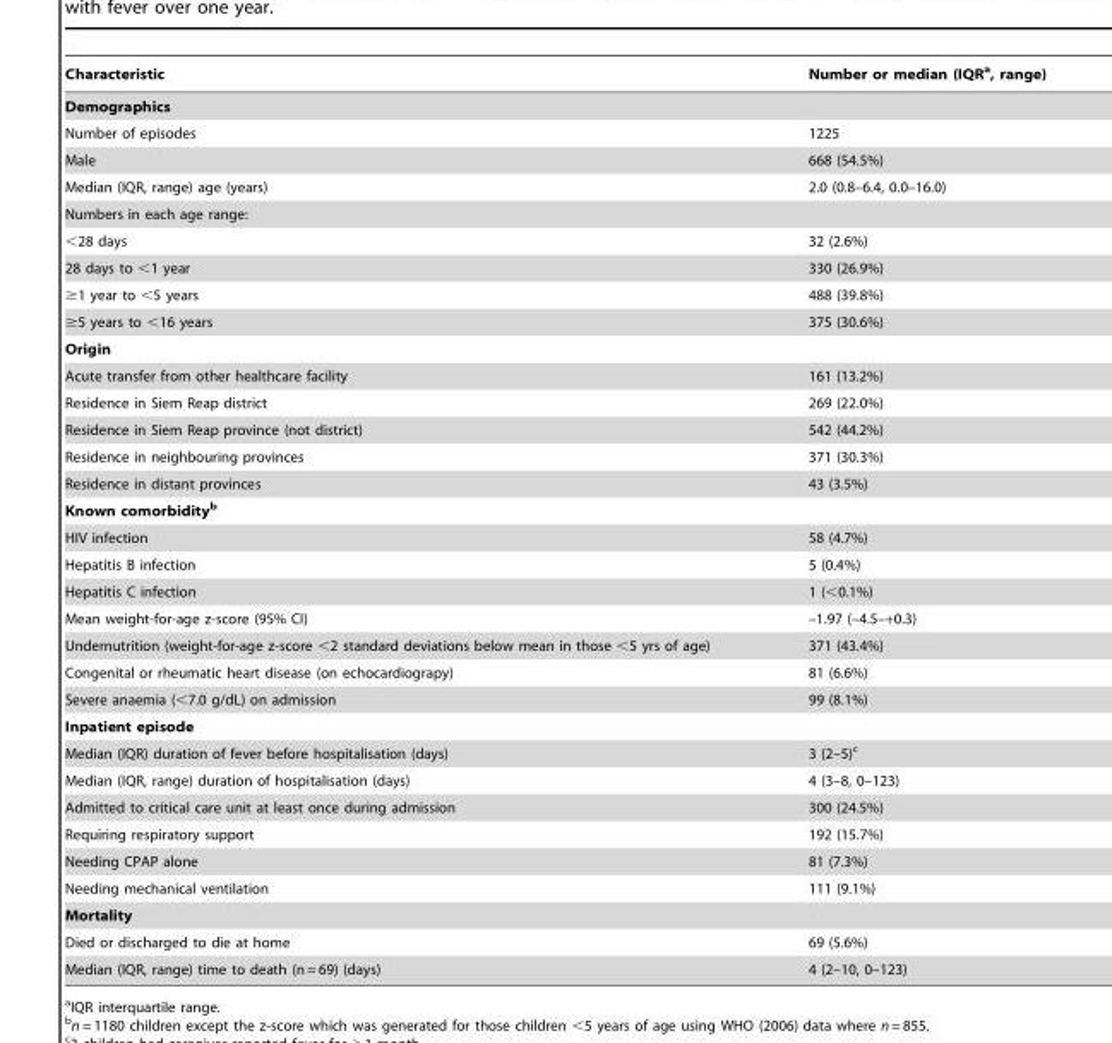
<table><thead><tr><td>Characteristic</td><td>Number or median (IQR<sup>a</sup>, range)</td></tr></thead><tbody><tr><td colspan="2">Demographics</td></tr><tr><td>Number of episodes</td><td>1225</td></tr><tr><td>Male</td><td>668 (54.5%)</td></tr><tr><td>Median (IQR, range) age (years)</td><td>2.0 (0.8–6.4, 0.0–16.0)</td></tr><tr><td colspan="2">Numbers in each age range:</td></tr><tr><td>&lt;28 days</td><td>32 (2.6%)</td></tr><tr><td>28 days to &lt;1 year</td><td>330 (26.9%)</td></tr><tr><td>≥1 year to &lt;5 years</td><td>488 (39.8%)</td></tr><tr><td>≥5 years to &lt;16 years</td><td>375 (30.6%)</td></tr><tr><td colspan="2">Origin</td></tr><tr><td>Acute transfer from other healthcare facility</td><td>161 (13.2%)</td></tr><tr><td>Residence in Siem Reap district</td><td>269 (22.0%)</td></tr><tr><td>Residence in Siem Reap province (not district)</td><td>542 (44.2%)</td></tr><tr><td>Residence in neighbouring provinces</td><td>371 (30.3%)</td></tr><tr><td>Residence in distant provinces</td><td>43 (3.5%)</td></tr><tr><td colspan="2">Known comorbidityb</td></tr><tr><td>HIV infection</td><td>58 (4.7%)</td></tr><tr><td>Hepatitis B infection</td><td>5 (0.4%)</td></tr><tr><td>Hepatitis C infection</td><td>1 (&lt;0.1%)</td></tr><tr><td>Mean weight-for-age z-score (95% CI)</td><td>–1.97 (–4.5–+0.3)</td></tr><tr><td>Undernutrition (weight-for-age z-score &lt;2 standard deviations below mean in those &lt;5 yrs of age)</td><td>371 (43.4%)</td></tr><tr><td>Congenital or rheumatic heart disease (on echocardiograpy)</td><td>81 (6.6%)</td></tr><tr><td>Severe anaemia (&lt;7.0 g/dL) on admission</td><td>99 (8.1%)</td></tr><tr><td colspan="2">Inpatient episode</td></tr><tr><td>Median (IQR) duration of fever before hospitalisation (days)</td><td>3 (2–5)<sup>c</sup></td></tr><tr><td>Median (IQR, range) duration of hospitalisation (days)</td><td>4 (3–8, 0–123)</td></tr><tr><td>Admitted to critical care unit at least once during admission</td><td>300 (24.5%)</td></tr><tr><td>Requiring respiratory support</td><td>192 (15.7%)</td></tr><tr><td>Needing CPAP alone</td><td>81 (7.3%)</td></tr><tr><td>Needing mechanical ventilation</td><td>111 (9.1%)</td></tr><tr><td colspan="2">Mortality</td></tr><tr><td>Died or discharged to die at home</td><td>69 (5.6%)</td></tr><tr><td>Median (IQR, range) time to death (n = 69) (days)</td><td>4 (2–10, 0–123)</td></tr></tbody></table>